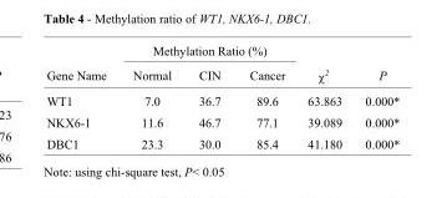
<table><thead><tr><td rowspan="2">Gene Name</td><td colspan="3">Methylation Ratio (%)</td><td rowspan="2">χ<sup>2</sup></td><td rowspan="2">P</td></tr><tr><td>Normal</td><td>CIN</td><td>Cancer</td></tr></thead><tbody><tr><td>WT1</td><td>7.0</td><td>36.7</td><td>89.6</td><td>63.863</td><td>0.000*</td></tr><tr><td>NKX6-1</td><td>11.6</td><td>46.7</td><td>77.1</td><td>39.089</td><td>0.000*</td></tr><tr><td>DBC1</td><td>23.3</td><td>30.0</td><td>85.4</td><td>41.180</td><td>0.000*</td></tr></tbody></table>